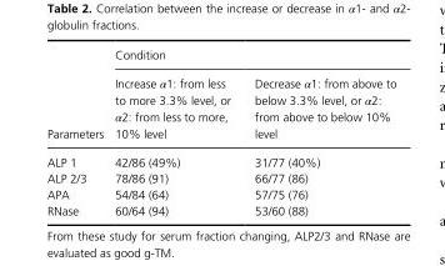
<table><thead><tr><td rowspan="2">Parameters</td><td colspan="2">Condition</td></tr><tr><td>Increase α1: from less to more 3.3% level, or α2: from less to more, 10% level</td><td>Decrease α1: from above to below 3.3% level, or α2: from above to below 10% level</td></tr></thead><tbody><tr><td>ALP 1</td><td>42/86 (49%)</td><td>31/77 (40%)</td></tr><tr><td>ALP 2/3</td><td>78/86 (91)</td><td>66/77 (86)</td></tr><tr><td>APA</td><td>54/84 (64)</td><td>57/75 (76)</td></tr><tr><td>RNase</td><td>60/64 (94)</td><td>53/60 (88)</td></tr></tbody></table>